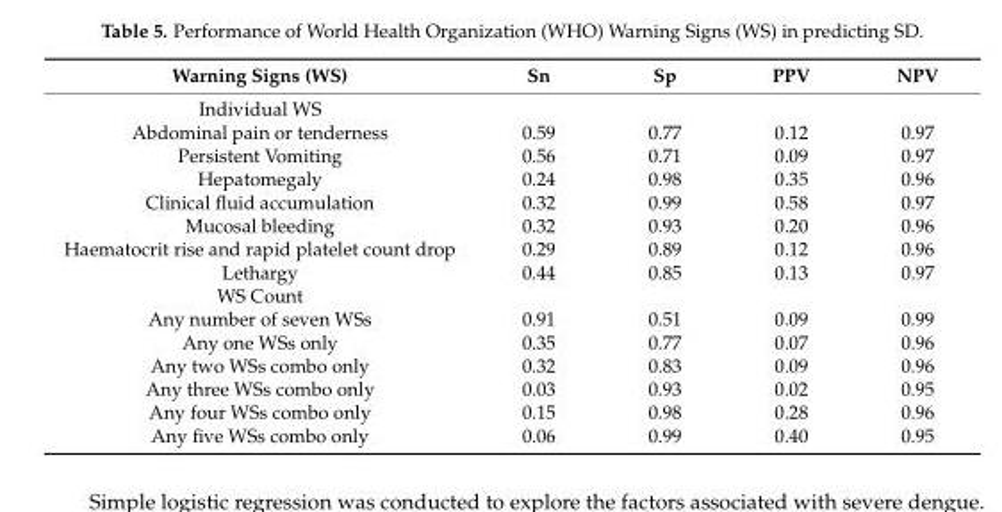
<table><thead><tr><td>Warning Signs (WS)</td><td>Sn</td><td>Sp</td><td>PPV</td><td>NPV</td></tr></thead><tbody><tr><td colspan="5">Individual WS</td></tr><tr><td>Abdominal pain or tenderness</td><td>0.59</td><td>0.77</td><td>0.12</td><td>0.97</td></tr><tr><td>Persistent Vomiting</td><td>0.56</td><td>0.71</td><td>0.09</td><td>0.97</td></tr><tr><td>Hepatomegaly</td><td>0.24</td><td>0.98</td><td>0.35</td><td>0.96</td></tr><tr><td>Clinical fluid accumulation</td><td>0.32</td><td>0.99</td><td>0.58</td><td>0.97</td></tr><tr><td>Mucosal bleeding</td><td>0.32</td><td>0.93</td><td>0.20</td><td>0.96</td></tr><tr><td>Haematocrit rise and rapid platelet count drop</td><td>0.29</td><td>0.89</td><td>0.12</td><td>0.96</td></tr><tr><td>Lethargy</td><td>0.44</td><td>0.85</td><td>0.13</td><td>0.97</td></tr><tr><td colspan="5">WS Count</td></tr><tr><td>Any number of seven WSs</td><td>0.91</td><td>0.51</td><td>0.09</td><td>0.99</td></tr><tr><td>Any one WSs only</td><td>0.35</td><td>0.77</td><td>0.07</td><td>0.96</td></tr><tr><td>Any two WSs combo only</td><td>0.32</td><td>0.83</td><td>0.09</td><td>0.96</td></tr><tr><td>Any three WSs combo only</td><td>0.03</td><td>0.93</td><td>0.02</td><td>0.95</td></tr><tr><td>Any four WSs combo only</td><td>0.15</td><td>0.98</td><td>0.28</td><td>0.96</td></tr><tr><td>Any five WSs combo only</td><td>0.06</td><td>0.99</td><td>0.40</td><td>0.95</td></tr></tbody></table>